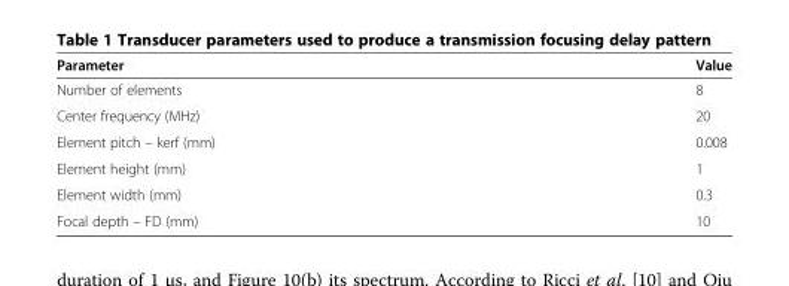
<table><thead><tr><td>Parameter</td><td>Value</td></tr></thead><tbody><tr><td>Number of elements</td><td>8</td></tr><tr><td>Center frequency (MHz)</td><td>20</td></tr><tr><td>Element pitch – kerf (mm)</td><td>0.008</td></tr><tr><td>Element height (mm)</td><td>1</td></tr><tr><td>Element width (mm)</td><td>0.3</td></tr><tr><td>Focal depth – FD (mm)</td><td>10</td></tr></tbody></table>